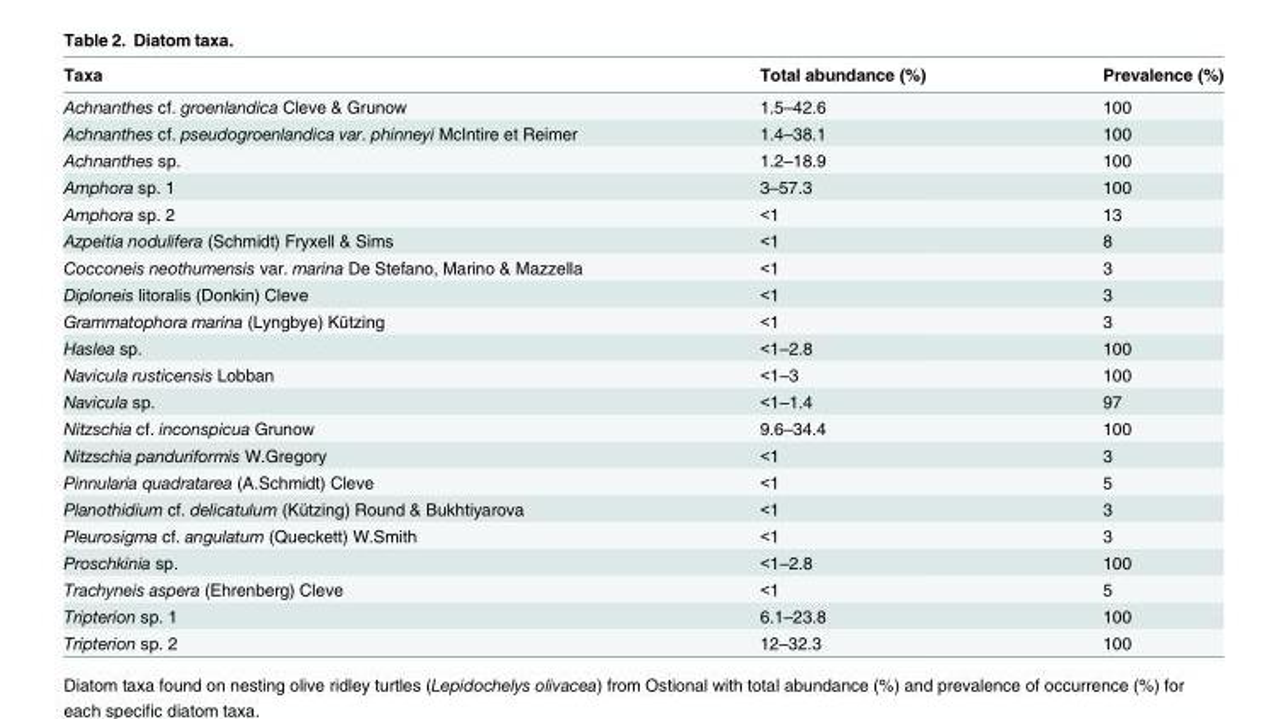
<table><thead><tr><td>Taxa</td><td>Total abundance (%)</td><td>Prevalence (%)</td></tr></thead><tbody><tr><td>Achnanthes cf. groenlandica Cleve &amp; Grunow</td><td>1.5–42.6</td><td>100</td></tr><tr><td>Achnanthes cf. pseudogroenlandica var. phinneyi McIntire et Reimer</td><td>1.4–38.1</td><td>100</td></tr><tr><td>Achnanthes sp.</td><td>1.2–18.9</td><td>100</td></tr><tr><td>Amphora sp. 1</td><td>3–57.3</td><td>100</td></tr><tr><td>Amphora sp. 2</td><td>&lt;1</td><td>13</td></tr><tr><td>Azpeitia nodulifera (Schmidt) Fryxell &amp; Sims</td><td>&lt;1</td><td>8</td></tr><tr><td>Cocconeis neothumensis var. marina De Stefano, Marino &amp; Mazzella</td><td>&lt;1</td><td>3</td></tr><tr><td>Diploneis litoralis (Donkin) Cleve</td><td>&lt;1</td><td>3</td></tr><tr><td>Grammatophora marina (Lyngbye) Kützing</td><td>&lt;1</td><td>3</td></tr><tr><td>Haslea sp.</td><td>&lt;1–2.8</td><td>100</td></tr><tr><td>Navicula rusticensis Lobban</td><td>&lt;1–3</td><td>100</td></tr><tr><td>Navicula sp.</td><td>&lt;1–1.4</td><td>97</td></tr><tr><td>Nitzschia cf. inconspicua Grunow</td><td>9.6–34.4</td><td>100</td></tr><tr><td>Nitzschia panduriformis W.Gregory</td><td>&lt;1</td><td>3</td></tr><tr><td>Pinnularia quadratarea (A.Schmidt) Cleve</td><td>&lt;1</td><td>5</td></tr><tr><td>Planothidium cf. delicatulum (Kützing) Round &amp; Bukhtiyarova</td><td>&lt;1</td><td>3</td></tr><tr><td>Pleurosigma cf. angulatum (Queckett) W.Smith</td><td>&lt;1</td><td>3</td></tr><tr><td>Proschkinia sp.</td><td>&lt;1–2.8</td><td>100</td></tr><tr><td>Trachyneis aspera (Ehrenberg) Cleve</td><td>&lt;1</td><td>5</td></tr><tr><td>Tripterion sp. 1</td><td>6.1–23.8</td><td>100</td></tr><tr><td>Tripterion sp. 2</td><td>12–32.3</td><td>100</td></tr></tbody></table>